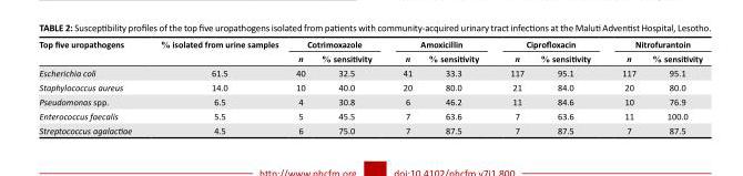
<table><thead><tr><td rowspan="2">Top five uropathogens</td><td rowspan="2">% isolated from urine samples</td><td colspan="2">Cotrimoxazole</td><td colspan="2">Amoxicillin</td><td colspan="2">Ciprofloxacin</td><td colspan="2">Nitrofurantoin</td></tr><tr><td>n</td><td>% sensitivity</td><td>n</td><td>% sensitivity</td><td>n</td><td>% sensitivity</td><td>n</td><td>% sensitivity</td></tr></thead><tbody><tr><td>Escherichia coli</td><td>61.5</td><td>40</td><td>32.5</td><td>41</td><td>33.3</td><td>117</td><td>95.1</td><td>117</td><td>95.1</td></tr><tr><td>Staphylococcus aureus</td><td>14.0</td><td>10</td><td>40.0</td><td>20</td><td>80.0</td><td>21</td><td>84.0</td><td>20</td><td>80.0</td></tr><tr><td>Pseudomonas spp.</td><td>6.5</td><td>4</td><td>30.8</td><td>6</td><td>46.2</td><td>11</td><td>84.6</td><td>10</td><td>76.9</td></tr><tr><td>Enterococcus faecalis</td><td>5.5</td><td>5</td><td>45.5</td><td>7</td><td>63.6</td><td>7</td><td>63.6</td><td>11</td><td>100.0</td></tr><tr><td>Streptococcus agalactiae</td><td>4.5</td><td>6</td><td>75.0</td><td>7</td><td>87.5</td><td>7</td><td>87.5</td><td>7</td><td>87.5</td></tr></tbody></table>